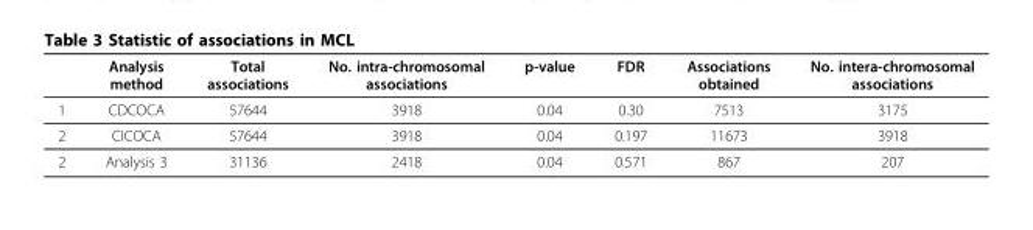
<table><thead><tr><td></td><td>Analysis method</td><td>Total associations</td><td>No. intra-chromosomal associations</td><td>p-value</td><td>FDR</td><td>Associations obtained</td><td>No. intera-chromosomal associations</td></tr></thead><tbody><tr><td>1</td><td>CDCOCA</td><td>57644</td><td>3918</td><td>0.04</td><td>0.30</td><td>7513</td><td>3175</td></tr><tr><td>2</td><td>CICOCA</td><td>57644</td><td>3918</td><td>0.04</td><td>0.197</td><td>11673</td><td>3918</td></tr><tr><td>2</td><td>Analysis 3</td><td>31136</td><td>2418</td><td>0.04</td><td>0.571</td><td>867</td><td>207</td></tr></tbody></table>